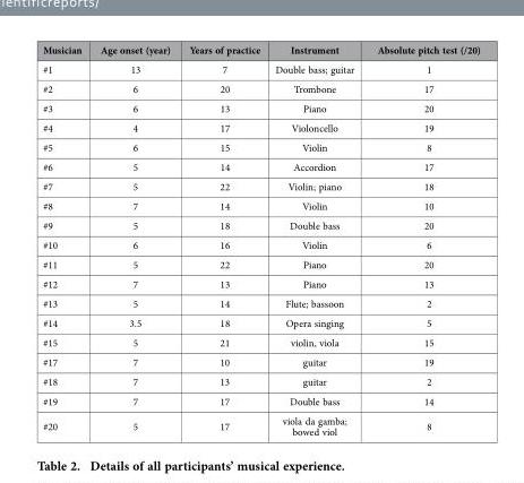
<table><thead><tr><td>Musician</td><td>Age onset (year)</td><td>Years of practice</td><td>Instrument</td><td>Absolute pitch test (/20)</td></tr></thead><tbody><tr><td>#1</td><td>13</td><td>7</td><td>Double bass; guitar</td><td>1</td></tr><tr><td>#2</td><td>6</td><td>20</td><td>Trombone</td><td>17</td></tr><tr><td>#3</td><td>6</td><td>13</td><td>Piano</td><td>20</td></tr><tr><td>#4</td><td>4</td><td>17</td><td>Violoncello</td><td>19</td></tr><tr><td>#5</td><td>6</td><td>15</td><td>Violin</td><td>8</td></tr><tr><td>#6</td><td>5</td><td>14</td><td>Accordion</td><td>17</td></tr><tr><td>#7</td><td>5</td><td>22</td><td>Violin; piano</td><td>18</td></tr><tr><td>#8</td><td>7</td><td>14</td><td>Violin</td><td>10</td></tr><tr><td>#9</td><td>5</td><td>18</td><td>Double bass</td><td>20</td></tr><tr><td>#10</td><td>6</td><td>16</td><td>Violin</td><td>6</td></tr><tr><td>#11</td><td>5</td><td>22</td><td>Piano</td><td>20</td></tr><tr><td>#12</td><td>7</td><td>13</td><td>Piano</td><td>13</td></tr><tr><td>#13</td><td>5</td><td>14</td><td>Flute; bassoon</td><td>2</td></tr><tr><td>#14</td><td>3.5</td><td>18</td><td>Opera singing</td><td>5</td></tr><tr><td>#15</td><td>5</td><td>21</td><td>violin, viola</td><td>15</td></tr><tr><td>#17</td><td>7</td><td>10</td><td>guitar</td><td>19</td></tr><tr><td>#18</td><td>7</td><td>13</td><td>guitar</td><td>2</td></tr><tr><td>#19</td><td>7</td><td>17</td><td>Double bass</td><td>14</td></tr><tr><td>#20</td><td>5</td><td>17</td><td>viola da gamba; bowed viol</td><td>8</td></tr></tbody></table>